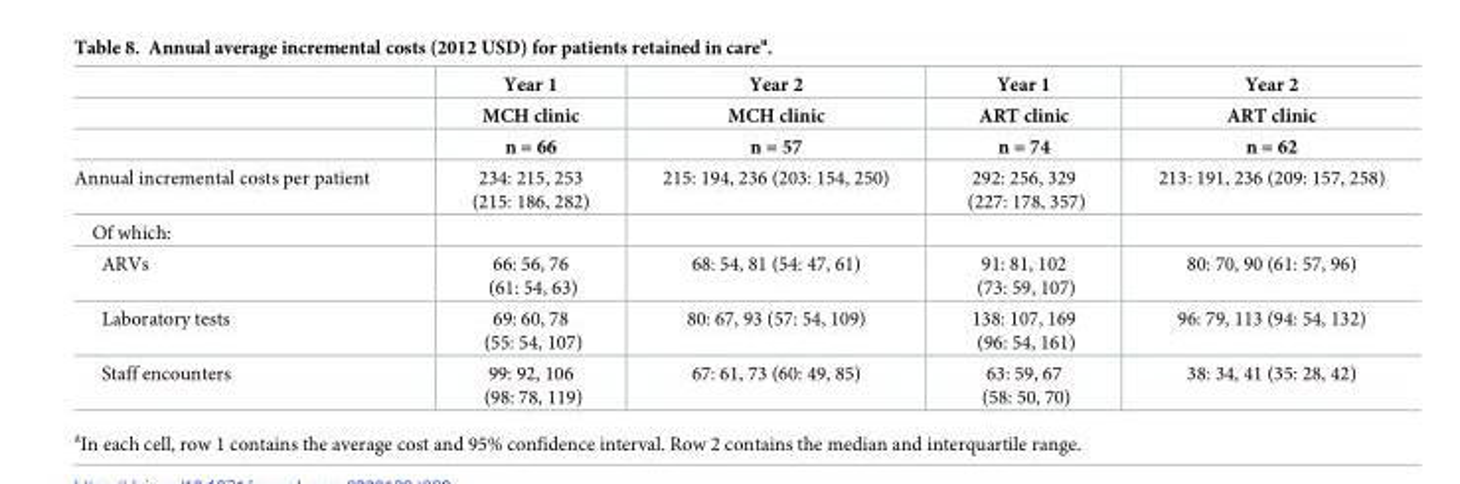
<table><thead><tr><td rowspan="3"></td><td rowspan="3">Year 1 MCH clinic n = 66</td><td rowspan="3">Year 2 MCH clinic n = 57</td><td rowspan="3">Year 1 ART clinic n = 74</td><td rowspan="3">Year 2 ART clinic n = 62</td></tr><tr></tr><tr></tr></thead><tbody><tr><td>Annual incremental costs per patient</td><td>234: 215, 253 (215: 186, 282)</td><td>215: 194, 236 (203: 154, 250)</td><td>292: 256, 329 (227: 178, 357)</td><td>213: 191, 236 (209: 157, 258)</td></tr><tr><td colspan="5">Of which:</td></tr><tr><td>ARVs</td><td>66: 56, 76 (61: 54, 63)</td><td>68: 54, 81 (54: 47, 61)</td><td>91: 81, 102 (73: 59, 107)</td><td>80: 70, 90 (61: 57, 96)</td></tr><tr><td>Laboratory tests</td><td>69: 60, 78 (55: 54, 107)</td><td>80: 67, 93 (57: 54, 109)</td><td>138: 107, 169 (96: 54, 161)</td><td>96: 79, 113 (94: 54, 132)</td></tr><tr><td>Staff encounters</td><td>99: 92, 106 (98: 78, 119)</td><td>67: 61, 73 (60: 49, 85)</td><td>63: 59, 67 (58: 50, 70)</td><td>38: 34, 41 (35: 28, 42)</td></tr></tbody></table>